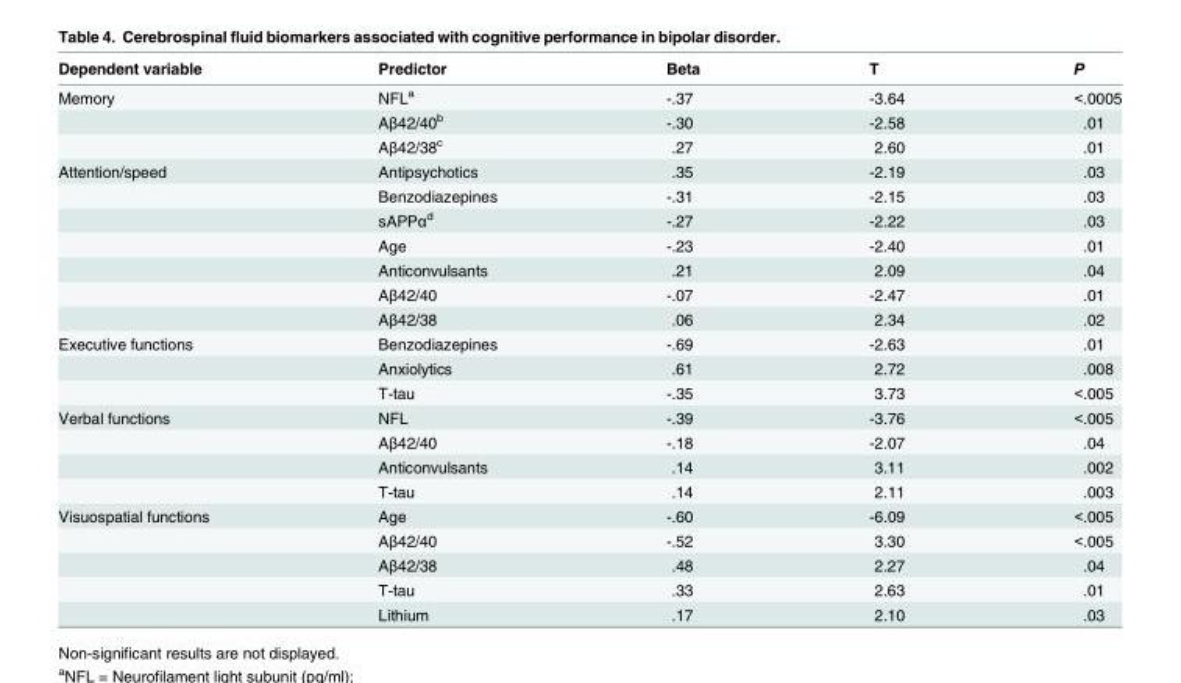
<table><thead><tr><td>Dependent variable</td><td>Predictor</td><td>Beta</td><td>T</td><td>P</td></tr></thead><tbody><tr><td rowspan="3">Memory</td><td>NFL<sup>a</sup></td><td>-.37</td><td>-3.64</td><td>&lt;.0005</td></tr><tr><td>Aβ42/40<sup>b</sup></td><td>-.30</td><td>-2.58</td><td>.01</td></tr><tr><td>Aβ42/38<sup>c</sup></td><td>.27</td><td>2.60</td><td>.01</td></tr><tr><td rowspan="7">Attention/speed</td><td>Antipsychotics</td><td>.35</td><td>-2.19</td><td>.03</td></tr><tr><td>Benzodiazepines</td><td>-.31</td><td>-2.15</td><td>.03</td></tr><tr><td>sAPPα<sup>d</sup></td><td>-.27</td><td>-2.22</td><td>.03</td></tr><tr><td>Age</td><td>-.23</td><td>-2.40</td><td>.01</td></tr><tr><td>Anticonvulsants</td><td>.21</td><td>2.09</td><td>.04</td></tr><tr><td>Aβ42/40</td><td>-.07</td><td>-2.47</td><td>.01</td></tr><tr><td>Aβ42/38</td><td>.06</td><td>2.34</td><td>.02</td></tr><tr><td rowspan="3">Executive functions</td><td>Benzodiazepines</td><td>-.69</td><td>-2.63</td><td>.01</td></tr><tr><td>Anxiolytics</td><td>.61</td><td>2.72</td><td>.008</td></tr><tr><td>T-tau</td><td>-.35</td><td>3.73</td><td>&lt;.005</td></tr><tr><td rowspan="4">Verbal functions</td><td>NFL</td><td>-.39</td><td>-3.76</td><td>&lt;.005</td></tr><tr><td>Aβ42/40</td><td>-.18</td><td>-2.07</td><td>.04</td></tr><tr><td>Anticonvulsants</td><td>.14</td><td>3.11</td><td>.002</td></tr><tr><td>T-tau</td><td>.14</td><td>2.11</td><td>.003</td></tr><tr><td rowspan="5">Visuospatial functions</td><td>Age</td><td>-.60</td><td>-6.09</td><td>&lt;.005</td></tr><tr><td>Aβ42/40</td><td>-.52</td><td>3.30</td><td>&lt;.005</td></tr><tr><td>Aβ42/38</td><td>.48</td><td>2.27</td><td>.04</td></tr><tr><td>T-tau</td><td>.33</td><td>2.63</td><td>.01</td></tr><tr><td>Lithium</td><td>.17</td><td>2.10</td><td>.03</td></tr></tbody></table>